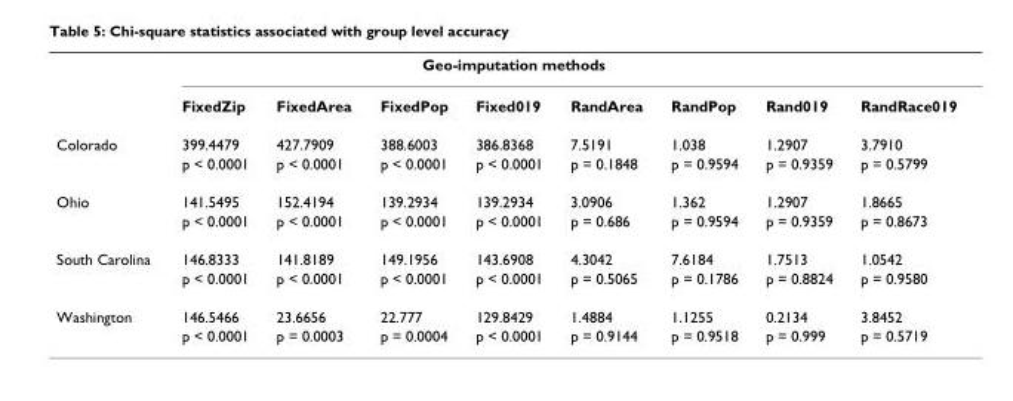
<table><thead><tr><td rowspan="2"></td><td colspan="7">Geo-imputation methods</td><td rowspan="2">RandRace019</td></tr><tr><td>FixedZip</td><td>FixedArea</td><td>FixedPop</td><td>Fixed019</td><td>RandArea</td><td>RandPop</td><td>Rand019</td></tr></thead><tbody><tr><td rowspan="2">Colorado</td><td>399.4479</td><td>427.7909</td><td>388.6003</td><td>386.8368</td><td>7.5191</td><td>1.038</td><td>1.2907</td><td>3.7910</td></tr><tr><td>p &lt; 0.0001</td><td>p &lt; 0.0001</td><td>p &lt; 0.0001</td><td>p &lt; 0.0001</td><td>p = 0.1848</td><td>p = 0.9594</td><td>p = 0.9359</td><td>p = 0.5799</td></tr><tr><td rowspan="2">Ohio</td><td>141.5495</td><td>152.4194</td><td>139.2934</td><td>139.2934</td><td>3.0906</td><td>1.362</td><td>1.2907</td><td>1.8665</td></tr><tr><td>p &lt; 0.0001</td><td>p &lt; 0.0001</td><td>p &lt; 0.0001</td><td>p &lt; 0.0001</td><td>p = 0.686</td><td>p = 0.9594</td><td>p = 0.9359</td><td>p = 0.8673</td></tr><tr><td rowspan="2">South Carolina</td><td>146.8333</td><td>141.8189</td><td>149.1956</td><td>143.6908</td><td>4.3042</td><td>7.6184</td><td>1.7513</td><td>1.0542</td></tr><tr><td>p &lt; 0.0001</td><td>p &lt; 0.0001</td><td>p &lt; 0.0001</td><td>p &lt; 0.0001</td><td>p = 0.5065</td><td>p = 0.1786</td><td>p = 0.8824</td><td>p = 0.9580</td></tr><tr><td rowspan="2">Washington</td><td>146.5466</td><td>23.6656</td><td>22.777</td><td>129.8429</td><td>1.4884</td><td>1.1255</td><td>0.2134</td><td>3.8452</td></tr><tr><td>p &lt; 0.0001</td><td>p = 0.0003</td><td>p = 0.0004</td><td>p &lt; 0.0001</td><td>p = 0.9144</td><td>p = 0.9518</td><td>p = 0.999</td><td>p = 0.5719</td></tr></tbody></table>